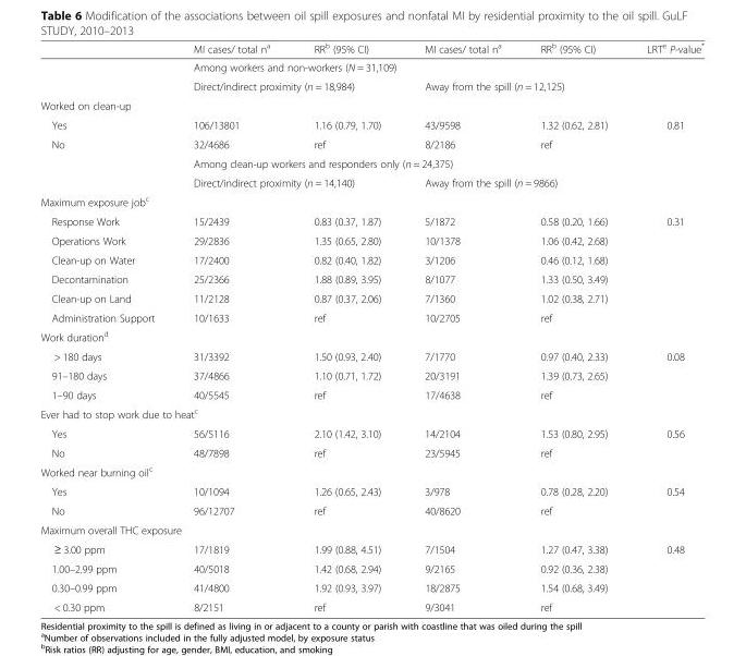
<table><thead><tr><td></td><td>MI cases/ total n<sup>a</sup></td><td>RR<sup>b</sup> (95% CI)</td><td>MI cases/ total n<sup>a</sup></td><td>RR<sup>b</sup> (95% CI)</td><td>LRT<sup>e</sup> P-value*</td></tr></thead><tbody><tr><td rowspan="2"></td><td colspan="4">Among workers and non-workers (N = 31,109)</td><td rowspan="2"></td></tr><tr><td colspan="2">Direct/indirect proximity (n = 18,984)</td><td colspan="2">Away from the spill (n = 12,125)</td></tr><tr><td colspan="6">Worked on clean-up</td></tr><tr><td>Yes</td><td>106/13801</td><td>1.16 (0.79, 1.70)</td><td>43/9598</td><td>1.32 (0.62, 2.81)</td><td rowspan="2">0.81</td></tr><tr><td rowspan="3">No</td><td>32/4686</td><td>ref</td><td>8/2186</td><td>ref</td></tr><tr><td colspan="4">Among clean-up workers and responders only (n = 24,375)</td><td rowspan="2"></td></tr><tr><td colspan="2">Direct/indirect proximity (n = 14,140)</td><td colspan="2">Away from the spill (n = 9866)</td></tr><tr><td colspan="6">Maximum exposure job<sup>c</sup></td></tr><tr><td>Response Work</td><td>15/2439</td><td>0.83 (0.37, 1.87)</td><td>5/1872</td><td>0.58 (0.20, 1.66)</td><td rowspan="6">0.31</td></tr><tr><td>Operations Work</td><td>29/2836</td><td>1.35 (0.65, 2.80)</td><td>10/1378</td><td>1.06 (0.42, 2.68)</td></tr><tr><td>Clean-up on Water</td><td>17/2400</td><td>0.82 (0.40, 1.82)</td><td>3/1206</td><td>0.46 (0.12, 1.68)</td></tr><tr><td>Decontamination</td><td>25/2366</td><td>1.88 (0.89, 3.95)</td><td>8/1077</td><td>1.33 (0.50, 3.49)</td></tr><tr><td>Clean-up on Land</td><td>11/2128</td><td>0.87 (0.37, 2.06)</td><td>7/1360</td><td>1.02 (0.38, 2.71)</td></tr><tr><td>Administration Support</td><td>10/1633</td><td>ref</td><td>10/2705</td><td>ref</td></tr><tr><td colspan="6">Work duration<sup>d</sup></td></tr><tr><td>&gt; 180 days</td><td>31/3392</td><td>1.50 (0.93, 2.40)</td><td>7/1770</td><td>0.97 (0.40, 2.33)</td><td rowspan="3">0.08</td></tr><tr><td>91–180 days</td><td>37/4866</td><td>1.10 (0.71, 1.72)</td><td>20/3191</td><td>1.39 (0.73, 2.65)</td></tr><tr><td>1–90 days</td><td>40/5545</td><td>ref</td><td>17/4638</td><td>ref</td></tr><tr><td colspan="6">Ever had to stop work due to heat<sup>c</sup></td></tr><tr><td>Yes</td><td>56/5116</td><td>2.10 (1.42, 3.10)</td><td>14/2104</td><td>1.53 (0.80, 2.95)</td><td rowspan="2">0.56</td></tr><tr><td>No</td><td>48/7898</td><td>ref</td><td>23/5945</td><td>ref</td></tr><tr><td colspan="6">Worked near burning oil<sup>c</sup></td></tr><tr><td>Yes</td><td>10/1094</td><td>1.26 (0.65, 2.43)</td><td>3/978</td><td>0.78 (0.28, 2.20)</td><td rowspan="2">0.54</td></tr><tr><td>No</td><td>96/12707</td><td>ref</td><td>40/8620</td><td>ref</td></tr><tr><td colspan="6">Maximum overall THC exposure</td></tr><tr><td>≥ 3.00 ppm</td><td>17/1819</td><td>1.99 (0.88, 4.51)</td><td>7/1504</td><td>1.27 (0.47, 3.38)</td><td rowspan="4">0.48</td></tr><tr><td>1.00–2.99 ppm</td><td>40/5018</td><td>1.42 (0.68, 2.94)</td><td>9/2165</td><td>0.92 (0.36, 2.38)</td></tr><tr><td>0.30–0.99 ppm</td><td>41/4800</td><td>1.92 (0.93, 3.97)</td><td>18/2875</td><td>1.54 (0.68, 3.49)</td></tr><tr><td>&lt; 0.30 ppm</td><td>8/2151</td><td>ref</td><td>9/3041</td><td>ref</td></tr></tbody></table>